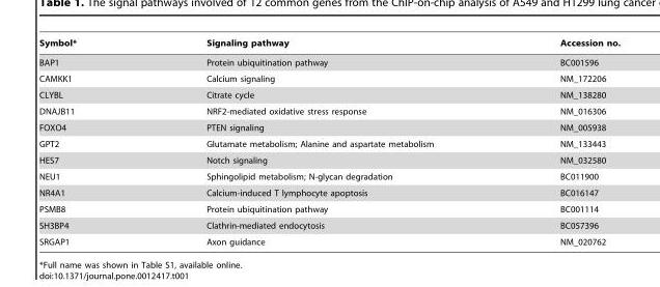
<table><thead><tr><td>Symbol*</td><td>Signaling pathway</td><td>Accession no.</td></tr></thead><tbody><tr><td>BAP1</td><td>Protein ubiquitination pathway</td><td>BC001596</td></tr><tr><td>CAMKK1</td><td>Calcium signaling</td><td>NM_172206</td></tr><tr><td>CLYBL</td><td>Citrate cycle</td><td>NM_138280</td></tr><tr><td>DNAJB11</td><td>NRF2-mediated oxidative stress response</td><td>NM_016306</td></tr><tr><td>FOXO4</td><td>PTEN signaling</td><td>NM_005938</td></tr><tr><td>GPT2</td><td>Glutamate metabolism; Alanine and aspartate metabolism</td><td>NM_133443</td></tr><tr><td>HES7</td><td>Notch signaling</td><td>NM_032580</td></tr><tr><td>NEU1</td><td>Sphingolipid metabolism; N-glycan degradation</td><td>BC011900</td></tr><tr><td>NR4A1</td><td>Calcium-induced T lymphocyte apoptosis</td><td>BC016147</td></tr><tr><td>PSMB8</td><td>Protein ubiquitination pathway</td><td>BC001114</td></tr><tr><td>SH3BP4</td><td>Clathrin-mediated endocytosis</td><td>BC057396</td></tr><tr><td>SRGAP1</td><td>Axon guidance</td><td>NM_020762</td></tr></tbody></table>